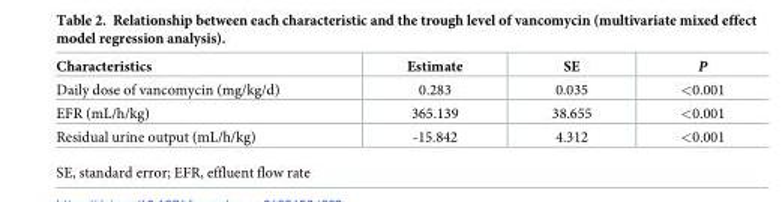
<table><thead><tr><td>Characteristics</td><td>Estimate</td><td>SE</td><td>P</td></tr></thead><tbody><tr><td>Daily dose of vancomycin (mg/kg/d)</td><td>0.283</td><td>0.035</td><td>&lt;0.001</td></tr><tr><td>EFR (mL/h/kg)</td><td>365.139</td><td>38.655</td><td>&lt;0.001</td></tr><tr><td>Residual urine output (mL/h/kg)</td><td>-15.842</td><td>4.312</td><td>&lt;0.001</td></tr></tbody></table>